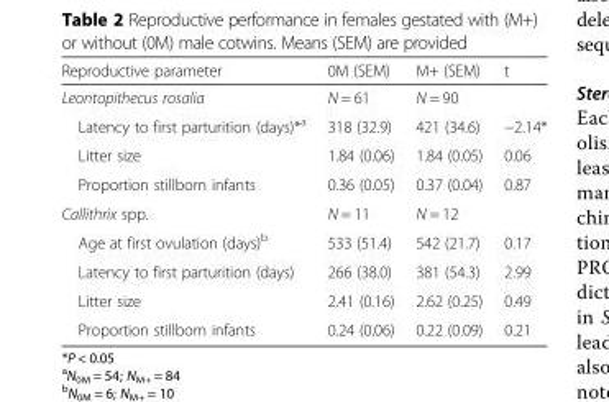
<table><thead><tr><td>Reproductive parameter</td><td>0M (SEM)</td><td>M+ (SEM)</td><td>t</td></tr></thead><tbody><tr><td>Leontopithecus rosalia</td><td>N = 61</td><td>N = 90</td><td></td></tr><tr><td>Latency to first parturition (days)*<sup>a</sup></td><td>318 (32.9)</td><td>421 (34.6)</td><td>−2.14*</td></tr><tr><td>Litter size</td><td>1.84 (0.06)</td><td>1.84 (0.05)</td><td>0.06</td></tr><tr><td>Proportion stillborn infants</td><td>0.36 (0.05)</td><td>0.37 (0.04)</td><td>0.87</td></tr><tr><td>Callithrix spp.</td><td>N = 11</td><td>N = 12</td><td></td></tr><tr><td>Age at first ovulation (days)<sup>b</sup></td><td>533 (51.4)</td><td>542 (21.7)</td><td>0.17</td></tr><tr><td>Latency to first parturition (days)</td><td>266 (38.0)</td><td>381 (54.3)</td><td>2.99</td></tr><tr><td>Litter size</td><td>2.41 (0.16)</td><td>2.62 (0.25)</td><td>0.49</td></tr><tr><td>Proportion stillborn infants</td><td>0.24 (0.06)</td><td>0.22 (0.09)</td><td>0.21</td></tr></tbody></table>